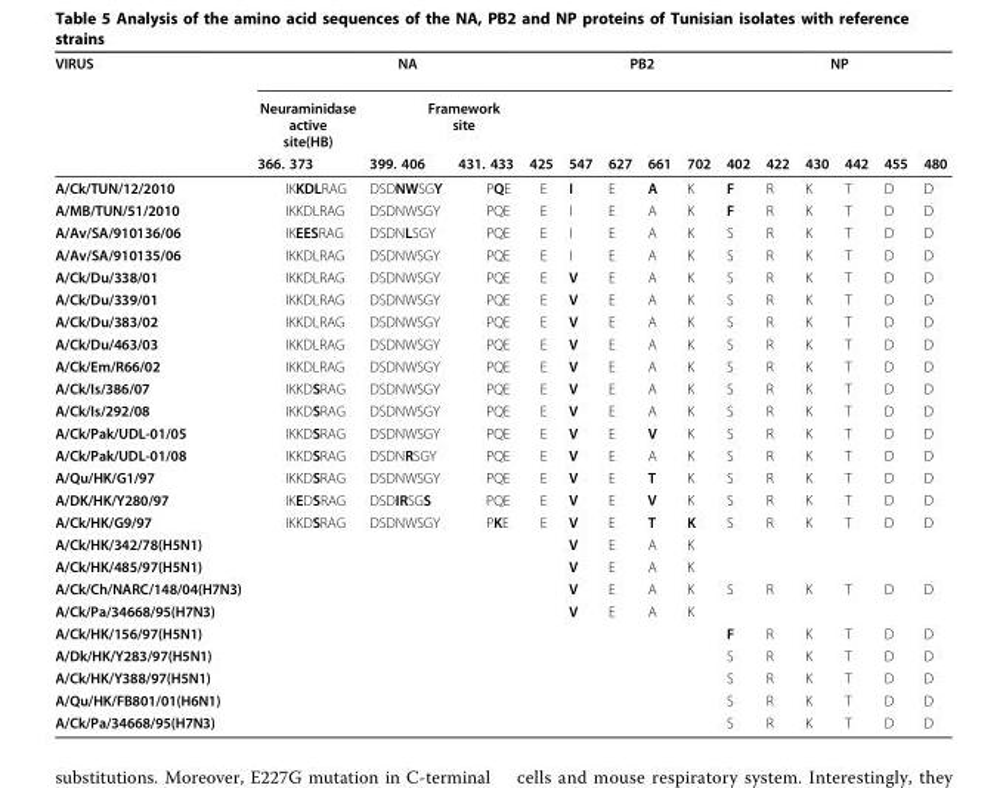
<table><thead><tr><td rowspan="3">VIRUS</td><td colspan="4">NA</td><td colspan="4">PB2</td><td colspan="6">NP</td></tr><tr><td rowspan="2">Neuraminidase active site(HB) 366. 373</td><td colspan="3">Framework site</td><td rowspan="2">547</td><td rowspan="2">627</td><td rowspan="2">661</td><td rowspan="2">702</td><td rowspan="2">402</td><td rowspan="2">422</td><td rowspan="2">430</td><td rowspan="2">442</td><td rowspan="2">455</td><td rowspan="2">480</td></tr><tr><td>399. 406</td><td>431. 433</td><td>425</td></tr></thead><tbody><tr><td>A/Ck/TUN/12/2010</td><td>IKKDLRAG</td><td>DSDNWSGY</td><td>PQE</td><td>E</td><td>I</td><td>E</td><td>A</td><td>K</td><td>F</td><td>R</td><td>K</td><td>T</td><td>D</td><td>D</td></tr><tr><td>A/MB/TUN/51/2010</td><td>IKKDLRAG</td><td>DSDNWSGY</td><td>PQE</td><td>E</td><td>I</td><td>E</td><td>A</td><td>K</td><td>F</td><td>R</td><td>K</td><td>T</td><td>D</td><td>D</td></tr><tr><td>A/Av/SA/910136/06</td><td>IKEESRAG</td><td>DSDNLSGY</td><td>PQE</td><td>E</td><td>I</td><td>E</td><td>A</td><td>K</td><td>S</td><td>R</td><td>K</td><td>T</td><td>D</td><td>D</td></tr><tr><td>A/Av/SA/910135/06</td><td>IKKDLRAG</td><td>DSDNWSGY</td><td>PQE</td><td>E</td><td>I</td><td>E</td><td>A</td><td>K</td><td>S</td><td>R</td><td>K</td><td>T</td><td>D</td><td>D</td></tr><tr><td>A/Ck/Du/338/01</td><td>IKKDLRAG</td><td>DSDNWSGY</td><td>PQE</td><td>E</td><td>V</td><td>E</td><td>A</td><td>K</td><td>S</td><td>R</td><td>K</td><td>T</td><td>D</td><td>D</td></tr><tr><td>A/Ck/Du/339/01</td><td>IKKDLRAG</td><td>DSDNWSGY</td><td>PQE</td><td>E</td><td>V</td><td>E</td><td>A</td><td>K</td><td>S</td><td>R</td><td>K</td><td>T</td><td>D</td><td>D</td></tr><tr><td>A/Ck/Du/383/02</td><td>IKKDLRAG</td><td>DSDNWSGY</td><td>PQE</td><td>E</td><td>V</td><td>E</td><td>A</td><td>K</td><td>S</td><td>R</td><td>K</td><td>T</td><td>D</td><td>D</td></tr><tr><td>A/Ck/Du/463/03</td><td>IKKDLRAG</td><td>DSDNWSGY</td><td>PQE</td><td>E</td><td>V</td><td>E</td><td>A</td><td>K</td><td>S</td><td>R</td><td>K</td><td>T</td><td>D</td><td>D</td></tr><tr><td>A/Ck/Em/R66/02</td><td>IKKDLRAG</td><td>DSDNWSGY</td><td>PQE</td><td>E</td><td>V</td><td>E</td><td>A</td><td>K</td><td>S</td><td>R</td><td>K</td><td>T</td><td>D</td><td>D</td></tr><tr><td>A/Ck/Is/386/07</td><td>IKKDSRAG</td><td>DSDNWSGY</td><td>PQE</td><td>E</td><td>V</td><td>E</td><td>A</td><td>K</td><td>S</td><td>R</td><td>K</td><td>T</td><td>D</td><td>D</td></tr><tr><td>A/Ck/Is/292/08</td><td>IKKDSRAG</td><td>DSDNWSGY</td><td>PQE</td><td>E</td><td>V</td><td>E</td><td>A</td><td>K</td><td>S</td><td>R</td><td>K</td><td>T</td><td>D</td><td>D</td></tr><tr><td>A/Ck/Pak/UDL-01/05</td><td>IKKDSRAG</td><td>DSDNWSGY</td><td>PQE</td><td>E</td><td>V</td><td>E</td><td>V</td><td>K</td><td>S</td><td>R</td><td>K</td><td>T</td><td>D</td><td>D</td></tr><tr><td>A/Ck/Pak/UDL-01/08</td><td>IKKDSRAG</td><td>DSDNRSGY</td><td>PQE</td><td>E</td><td>V</td><td>E</td><td>A</td><td>K</td><td>S</td><td>R</td><td>K</td><td>T</td><td>D</td><td>D</td></tr><tr><td>A/Qu/HK/G1/97</td><td>IKKDSRAG</td><td>DSDNWSGY</td><td>PQE</td><td>E</td><td>V</td><td>E</td><td>T</td><td>K</td><td>S</td><td>R</td><td>K</td><td>T</td><td>D</td><td>D</td></tr><tr><td>A/DK/HK/Y280/97</td><td>IKEDSRAG</td><td>DSDIRSGS</td><td>PQE</td><td>E</td><td>V</td><td>E</td><td>V</td><td>K</td><td>S</td><td>R</td><td>K</td><td>T</td><td>D</td><td>D</td></tr><tr><td>A/Ck/HK/G9/97</td><td>IKKDSRAG</td><td>DSDNWSGY</td><td>PKE</td><td>E</td><td>V</td><td>E</td><td>T</td><td>K</td><td>S</td><td>R</td><td>K</td><td>T</td><td>D</td><td>D</td></tr><tr><td>A/Ck/HK/342/78(H5N1)</td><td></td><td></td><td></td><td></td><td>V</td><td>E</td><td>A</td><td>K</td><td></td><td></td><td></td><td></td><td></td><td></td></tr><tr><td>A/Ck/HK/485/97(H5N1)</td><td></td><td></td><td></td><td></td><td>V</td><td>E</td><td>A</td><td>K</td><td></td><td></td><td></td><td></td><td></td><td></td></tr><tr><td>A/Ck/Ch/NARC/148/04(H7N3)</td><td></td><td></td><td></td><td></td><td>V</td><td>E</td><td>A</td><td>K</td><td>S</td><td>R</td><td>K</td><td>T</td><td>D</td><td>D</td></tr><tr><td>A/Ck/Pa/34668/95(H7N3)</td><td></td><td></td><td></td><td></td><td>V</td><td>E</td><td>A</td><td>K</td><td></td><td></td><td></td><td></td><td></td><td></td></tr><tr><td>A/Ck/HK/156/97(H5N1)</td><td></td><td></td><td></td><td></td><td></td><td></td><td></td><td></td><td>F</td><td>R</td><td>K</td><td>T</td><td>D</td><td>D</td></tr><tr><td>A/Dk/HK/Y283/97(H5N1)</td><td></td><td></td><td></td><td></td><td></td><td></td><td></td><td></td><td>S</td><td>R</td><td>K</td><td>T</td><td>D</td><td>D</td></tr><tr><td>A/Ck/HK/Y388/97(H5N1)</td><td></td><td></td><td></td><td></td><td></td><td></td><td></td><td></td><td>S</td><td>R</td><td>K</td><td>T</td><td>D</td><td>D</td></tr><tr><td>A/Qu/HK/FB801/01(H6N1)</td><td></td><td></td><td></td><td></td><td></td><td></td><td></td><td></td><td>S</td><td>R</td><td>K</td><td>T</td><td>D</td><td>D</td></tr><tr><td>A/Ck/Pa/34668/95(H7N3)</td><td></td><td></td><td></td><td></td><td></td><td></td><td></td><td></td><td>S</td><td>R</td><td>K</td><td>T</td><td>D</td><td>D</td></tr></tbody></table>